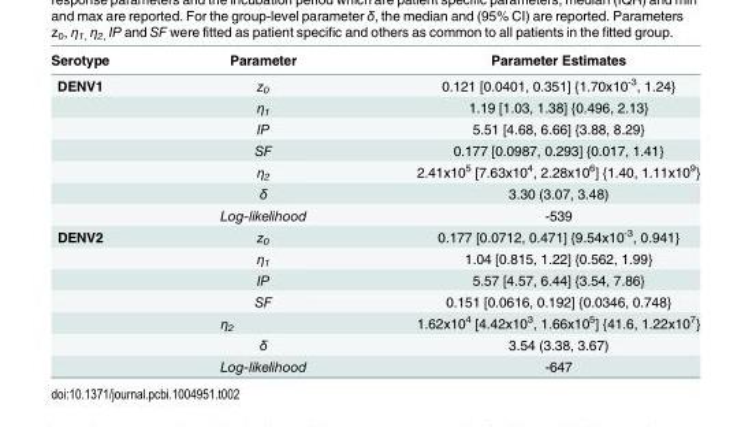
<table><thead><tr><td>Serotype</td><td>Parameter</td><td>Parameter Estimates</td></tr></thead><tbody><tr><td rowspan="7">DENV1</td><td>z<sub>0</sub></td><td>0.121 [0.0401, 0.351] {1.70x10<sup>-3</sup>, 1.24}</td></tr><tr><td>η<sub>1</sub></td><td>1.19 [1.03, 1.38] {0.496, 2.13}</td></tr><tr><td>IP</td><td>5.51 [4.68, 6.66] {3.88, 8.29}</td></tr><tr><td>SF</td><td>0.177 [0.0987, 0.293] {0.017, 1.41}</td></tr><tr><td>η<sub>2</sub></td><td>2.41x10<sup>5</sup> [7.63x10<sup>4</sup>, 2.28x10<sup>6</sup>] {1.40, 1.11x10<sup>9</sup>}</td></tr><tr><td>δ</td><td>3.30 (3.07, 3.48)</td></tr><tr><td>Log-likelihood</td><td>-539</td></tr><tr><td rowspan="7">DENV2</td><td>z<sub>0</sub></td><td>0.177 [0.0712, 0.471] {9.54x10<sup>-3</sup>, 0.941}</td></tr><tr><td>η<sub>1</sub></td><td>1.04 [0.815, 1.22] {0.562, 1.99}</td></tr><tr><td>IP</td><td>5.57 [4.57, 6.44] {3.54, 7.86}</td></tr><tr><td>SF</td><td>0.151 [0.0616, 0.192] {0.0346, 0.748}</td></tr><tr><td>η<sub>2</sub></td><td>1.62x10<sup>4</sup> [4.42x10<sup>3</sup>, 1.66x10<sup>5</sup>] {41.6, 1.22x10<sup>7</sup>}</td></tr><tr><td>δ</td><td>3.54 (3.38, 3.67)</td></tr><tr><td>Log-likelihood</td><td>-647</td></tr></tbody></table>